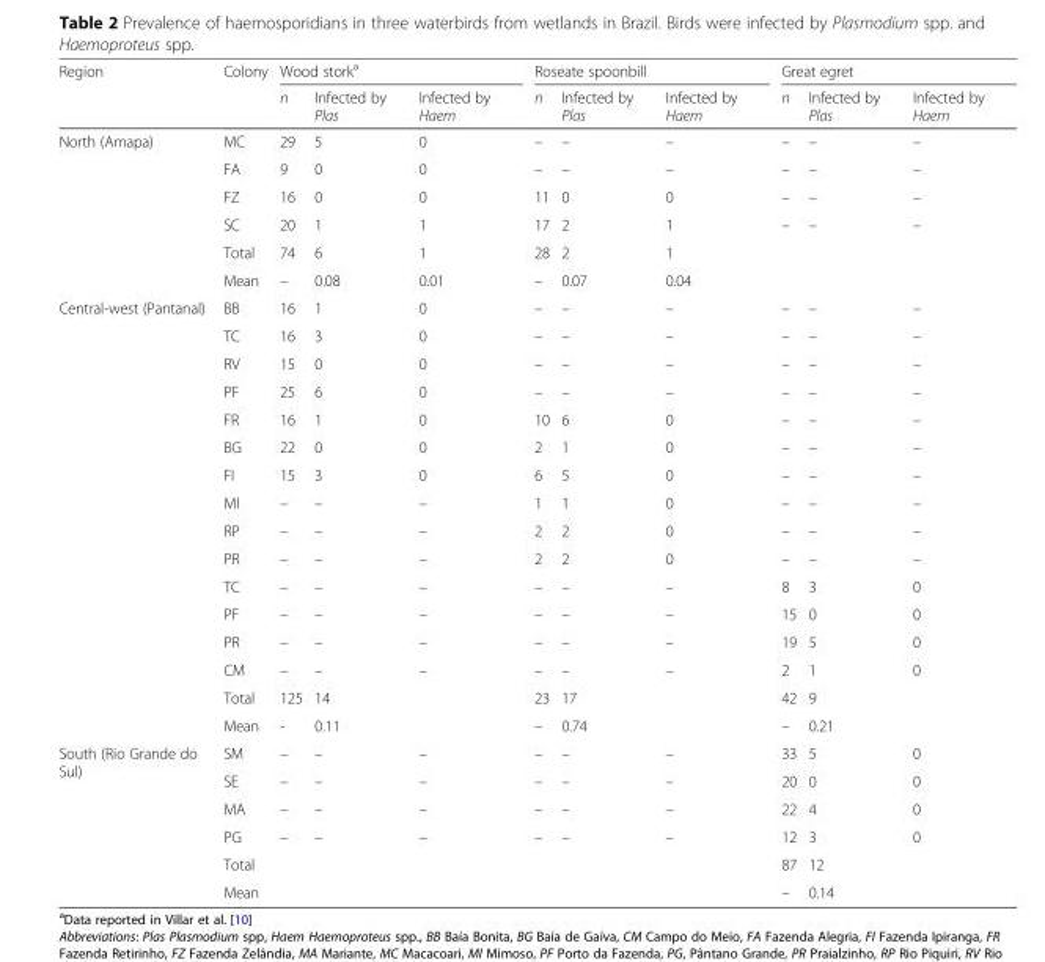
<table><thead><tr><td rowspan="2">Region</td><td rowspan="2">Colony</td><td colspan="3">Wood stork<sup>a</sup></td><td colspan="3">Roseate spoonbill</td><td colspan="3">Great egret</td></tr><tr><td>n</td><td>Infected by Plas</td><td>Infected by Haem</td><td>n</td><td>Infected by Plas</td><td>Infected by Haem</td><td>n</td><td>Infected by Plas</td><td>Infected by Haem</td></tr></thead><tbody><tr><td rowspan="6">North (Amapa)</td><td>MC</td><td>29</td><td>5</td><td>0</td><td>–</td><td>–</td><td>–</td><td>–</td><td>–</td><td>–</td></tr><tr><td>FA</td><td>9</td><td>0</td><td>0</td><td>–</td><td>–</td><td>–</td><td>–</td><td>–</td><td>–</td></tr><tr><td>FZ</td><td>16</td><td>0</td><td>0</td><td>11</td><td>0</td><td>0</td><td>–</td><td>–</td><td>–</td></tr><tr><td>SC</td><td>20</td><td>1</td><td>1</td><td>17</td><td>2</td><td>1</td><td>–</td><td>–</td><td>–</td></tr><tr><td>Total</td><td>74</td><td>6</td><td>1</td><td>28</td><td>2</td><td>1</td><td></td><td></td><td></td></tr><tr><td>Mean</td><td>–</td><td>0.08</td><td>0.01</td><td>–</td><td>0.07</td><td>0.04</td><td></td><td></td><td></td></tr><tr><td rowspan="16">Central-west (Pantanal)</td><td>BB</td><td>16</td><td>1</td><td>0</td><td>–</td><td>–</td><td>–</td><td>–</td><td>–</td><td>–</td></tr><tr><td>TC</td><td>16</td><td>3</td><td>0</td><td>–</td><td>–</td><td>–</td><td>–</td><td>–</td><td>–</td></tr><tr><td>RV</td><td>15</td><td>0</td><td>0</td><td>–</td><td>–</td><td>–</td><td>–</td><td>–</td><td>–</td></tr><tr><td>PF</td><td>25</td><td>6</td><td>0</td><td>–</td><td>–</td><td>–</td><td>–</td><td>–</td><td>–</td></tr><tr><td>FR</td><td>16</td><td>1</td><td>0</td><td>10</td><td>6</td><td>0</td><td>–</td><td>–</td><td>–</td></tr><tr><td>BG</td><td>22</td><td>0</td><td>0</td><td>2</td><td>1</td><td>0</td><td>–</td><td>–</td><td>–</td></tr><tr><td>FI</td><td>15</td><td>3</td><td>0</td><td>6</td><td>5</td><td>0</td><td>–</td><td>–</td><td>–</td></tr><tr><td>MI</td><td>–</td><td>–</td><td>–</td><td>1</td><td>1</td><td>0</td><td>–</td><td>–</td><td>–</td></tr><tr><td>RP</td><td>–</td><td>–</td><td>–</td><td>2</td><td>2</td><td>0</td><td>–</td><td>–</td><td>–</td></tr><tr><td>PR</td><td>–</td><td>–</td><td>–</td><td>2</td><td>2</td><td>0</td><td>–</td><td>–</td><td>–</td></tr><tr><td>TC</td><td>–</td><td>–</td><td>–</td><td>–</td><td>–</td><td>–</td><td>8</td><td>3</td><td>0</td></tr><tr><td>PF</td><td>–</td><td>–</td><td>–</td><td>–</td><td>–</td><td>–</td><td>15</td><td>0</td><td>0</td></tr><tr><td>PR</td><td>–</td><td>–</td><td>–</td><td>–</td><td>–</td><td>–</td><td>19</td><td>5</td><td>0</td></tr><tr><td>CM</td><td>–</td><td>–</td><td>–</td><td>–</td><td>–</td><td>–</td><td>2</td><td>1</td><td>0</td></tr><tr><td>Total</td><td>125</td><td>14</td><td></td><td>23</td><td>17</td><td></td><td>42</td><td>9</td><td></td></tr><tr><td>Mean</td><td>-</td><td>0.11</td><td></td><td>–</td><td>0.74</td><td></td><td>–</td><td>0.21</td><td></td></tr><tr><td rowspan="6">South (Rio Grande do Sul)</td><td>SM</td><td>–</td><td>–</td><td>–</td><td>–</td><td>–</td><td>–</td><td>33</td><td>5</td><td>0</td></tr><tr><td>SE</td><td>–</td><td>–</td><td>–</td><td>–</td><td>–</td><td>–</td><td>20</td><td>0</td><td>0</td></tr><tr><td>MA</td><td>–</td><td>–</td><td>–</td><td>–</td><td>–</td><td>–</td><td>22</td><td>4</td><td>0</td></tr><tr><td>PG</td><td>–</td><td>–</td><td>–</td><td>–</td><td>–</td><td>–</td><td>12</td><td>3</td><td>0</td></tr><tr><td>Total</td><td></td><td></td><td></td><td></td><td></td><td></td><td>87</td><td>12</td><td></td></tr><tr><td>Mean</td><td></td><td></td><td></td><td></td><td></td><td></td><td>–</td><td>0.14</td><td></td></tr></tbody></table>